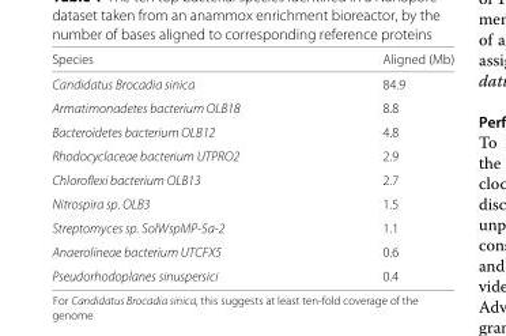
<table><thead><tr><td>Species</td><td>Aligned (Mb)</td></tr></thead><tbody><tr><td>Candidatus Brocadia sinica</td><td>84.9</td></tr><tr><td>Armatimonadetes bacterium OLB18</td><td>8.8</td></tr><tr><td>Bacteroidetes bacterium OLB12</td><td>4.8</td></tr><tr><td>Rhodocyclaceae bacterium UTPRO2</td><td>2.9</td></tr><tr><td>Chloroflexi bacterium OLB13</td><td>2.7</td></tr><tr><td>Nitrospira sp. OLB3</td><td>1.5</td></tr><tr><td>Streptomyces sp. SolWspMP-5a-2</td><td>1.1</td></tr><tr><td>Anaerolineae bacterium UTCFX5</td><td>0.6</td></tr><tr><td>Pseudorhodoplanes sinuspersici</td><td>0.4</td></tr></tbody></table>